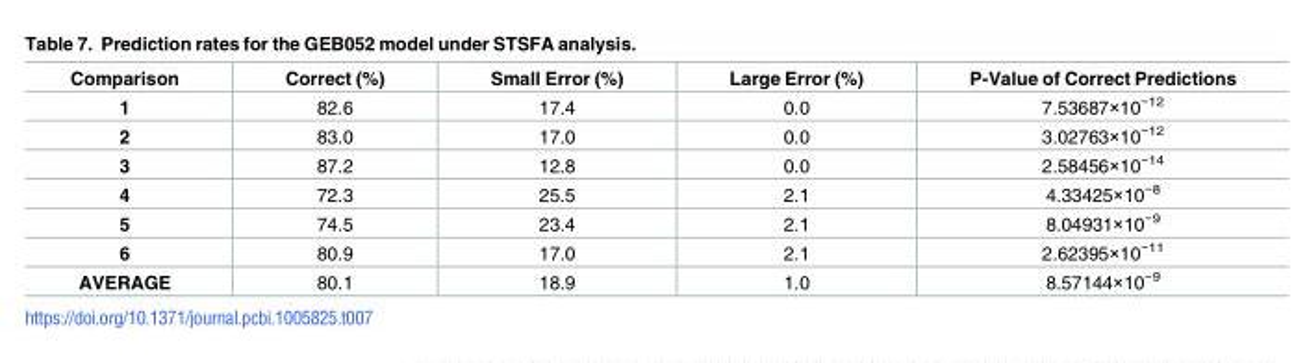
<table><thead><tr><td>Comparison</td><td>Correct (%)</td><td>Small Error (%)</td><td>Large Error (%)</td><td>P-Value of Correct Predictions</td></tr></thead><tbody><tr><td>1</td><td>82.6</td><td>17.4</td><td>0.0</td><td>7.53687×10<sup>−12</sup></td></tr><tr><td>2</td><td>83.0</td><td>17.0</td><td>0.0</td><td>3.02763×10<sup>−12</sup></td></tr><tr><td>3</td><td>87.2</td><td>12.8</td><td>0.0</td><td>2.58456×10<sup>−14</sup></td></tr><tr><td>4</td><td>72.3</td><td>25.5</td><td>2.1</td><td>4.33425×10<sup>−8</sup></td></tr><tr><td>5</td><td>74.5</td><td>23.4</td><td>2.1</td><td>8.04931×10<sup>−9</sup></td></tr><tr><td>6</td><td>80.9</td><td>17.0</td><td>2.1</td><td>2.62395×10<sup>−11</sup></td></tr><tr><td>AVERAGE</td><td>80.1</td><td>18.9</td><td>1.0</td><td>8.57144×10<sup>−9</sup></td></tr></tbody></table>